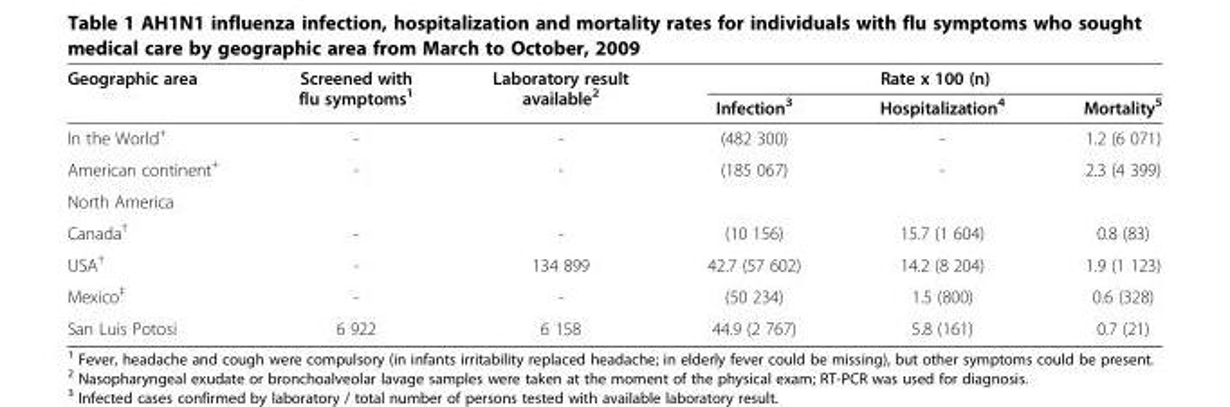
<table><thead><tr><td rowspan="2">Geographic area</td><td rowspan="2">Screened with flu symptoms<sup>1</sup></td><td rowspan="2">Laboratory result available<sup>2</sup></td><td colspan="3">Rate x 100 (n)</td></tr><tr><td>Infection<sup>3</sup></td><td>Hospitalization<sup>4</sup></td><td>Mortality<sup>5</sup></td></tr></thead><tbody><tr><td>In the World<sup>+</sup></td><td>-</td><td>-</td><td>(482 300)</td><td>-</td><td>1.2 (6 071)</td></tr><tr><td>American continent<sup>+</sup></td><td>-</td><td>-</td><td>(185 067)</td><td>-</td><td>2.3 (4 399)</td></tr><tr><td colspan="6">North America</td></tr><tr><td>Canada<sup>†</sup></td><td>-</td><td>-</td><td>(10 156)</td><td>15.7 (1 604)</td><td>0.8 (83)</td></tr><tr><td>USA<sup>†</sup></td><td>-</td><td>134 899</td><td>42.7 (57 602)</td><td>14.2 (8 204)</td><td>1.9 (1 123)</td></tr><tr><td>Mexico<sup>‡</sup></td><td>-</td><td>-</td><td>(50 234)</td><td>1.5 (800)</td><td>0.6 (328)</td></tr><tr><td>San Luis Potosi</td><td>6 922</td><td>6 158</td><td>44.9 (2 767)</td><td>5.8 (161)</td><td>0.7 (21)</td></tr></tbody></table>